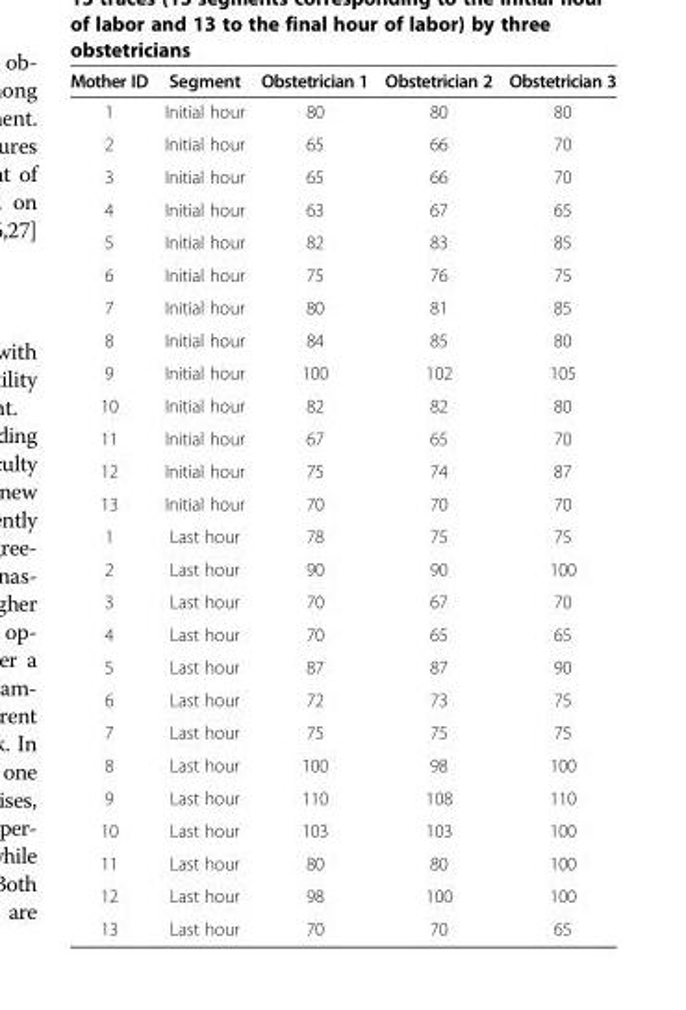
<table><thead><tr><td>Mother ID</td><td>Segment</td><td>Obstetrician 1</td><td>Obstetrician 2</td><td>Obstetrician 3</td></tr></thead><tbody><tr><td>1</td><td>Initial hour</td><td>80</td><td>80</td><td>80</td></tr><tr><td>2</td><td>Initial hour</td><td>65</td><td>66</td><td>70</td></tr><tr><td>3</td><td>Initial hour</td><td>65</td><td>66</td><td>70</td></tr><tr><td>4</td><td>Initial hour</td><td>63</td><td>67</td><td>65</td></tr><tr><td>5</td><td>Initial hour</td><td>82</td><td>83</td><td>85</td></tr><tr><td>6</td><td>Initial hour</td><td>75</td><td>76</td><td>75</td></tr><tr><td>7</td><td>Initial hour</td><td>80</td><td>81</td><td>85</td></tr><tr><td>8</td><td>Initial hour</td><td>84</td><td>85</td><td>80</td></tr><tr><td>9</td><td>Initial hour</td><td>100</td><td>102</td><td>105</td></tr><tr><td>10</td><td>Initial hour</td><td>82</td><td>82</td><td>80</td></tr><tr><td>11</td><td>Initial hour</td><td>67</td><td>65</td><td>70</td></tr><tr><td>12</td><td>Initial hour</td><td>75</td><td>74</td><td>87</td></tr><tr><td>13</td><td>Initial hour</td><td>70</td><td>70</td><td>70</td></tr><tr><td>1</td><td>Last hour</td><td>78</td><td>75</td><td>75</td></tr><tr><td>2</td><td>Last hour</td><td>90</td><td>90</td><td>100</td></tr><tr><td>3</td><td>Last hour</td><td>70</td><td>67</td><td>70</td></tr><tr><td>4</td><td>Last hour</td><td>70</td><td>65</td><td>65</td></tr><tr><td>5</td><td>Last hour</td><td>87</td><td>87</td><td>90</td></tr><tr><td>6</td><td>Last hour</td><td>72</td><td>73</td><td>75</td></tr><tr><td>7</td><td>Last hour</td><td>75</td><td>75</td><td>75</td></tr><tr><td>8</td><td>Last hour</td><td>100</td><td>98</td><td>100</td></tr><tr><td>9</td><td>Last hour</td><td>110</td><td>108</td><td>110</td></tr><tr><td>10</td><td>Last hour</td><td>103</td><td>103</td><td>100</td></tr><tr><td>11</td><td>Last hour</td><td>80</td><td>80</td><td>100</td></tr><tr><td>12</td><td>Last hour</td><td>98</td><td>100</td><td>100</td></tr><tr><td>13</td><td>Last hour</td><td>70</td><td>70</td><td>65</td></tr></tbody></table>